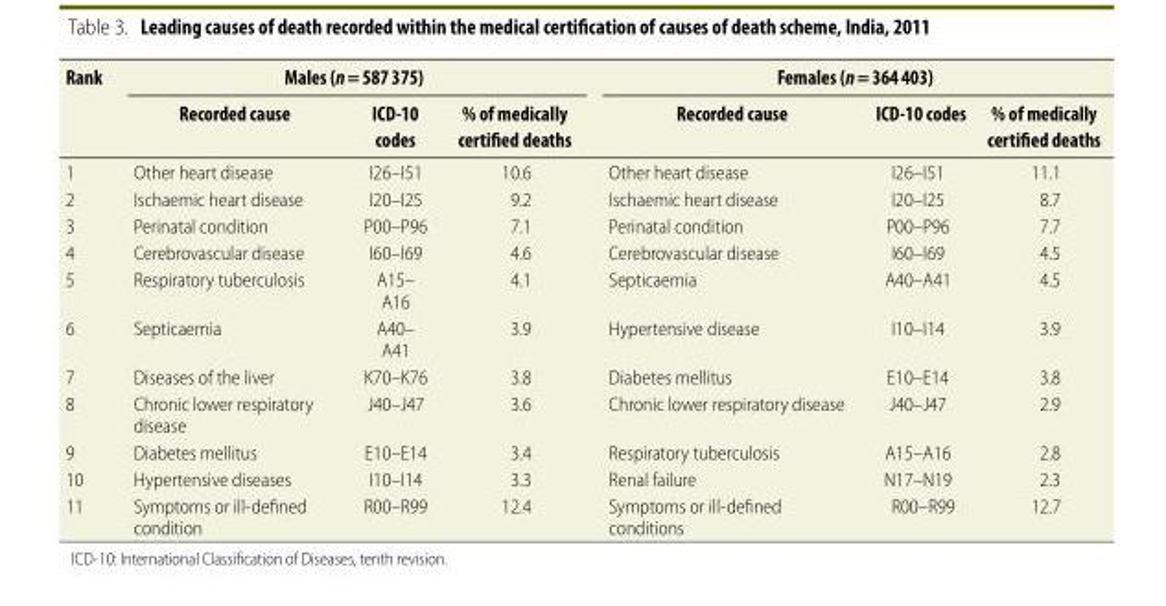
<table><thead><tr><td rowspan="2">Rank</td><td colspan="3">Males (n = 587 375)</td><td colspan="3">Females (n = 364 403)</td></tr><tr><td>Recorded cause</td><td>ICD-10 codes</td><td>% of medically certified deaths</td><td>Recorded cause</td><td>ICD-10 codes</td><td>% of medically certified deaths</td></tr></thead><tbody><tr><td>1</td><td>Other heart disease</td><td>I26–I51</td><td>10.6</td><td>Other heart disease</td><td>I26–I51</td><td>11.1</td></tr><tr><td>2</td><td>Ischaemic heart disease</td><td>I20–I25</td><td>9.2</td><td>Ischaemic heart disease</td><td>I20–I25</td><td>8.7</td></tr><tr><td>3</td><td>Perinatal condition</td><td>P00–P96</td><td>7.1</td><td>Perinatal condition</td><td>P00–P96</td><td>7.7</td></tr><tr><td>4</td><td>Cerebrovascular disease</td><td>I60–I69</td><td>4.6</td><td>Cerebrovascular disease</td><td>I60–I69</td><td>4.5</td></tr><tr><td>5</td><td>Respiratory tuberculosis</td><td>A15– A16</td><td>4.1</td><td>Septicaemia</td><td>A40–A41</td><td>4.5</td></tr><tr><td>6</td><td>Septicaemia</td><td>A40– A41</td><td>3.9</td><td>Hypertensive disease</td><td>I10–I14</td><td>3.9</td></tr><tr><td>7</td><td>Diseases of the liver</td><td>K70–K76</td><td>3.8</td><td>Diabetes mellitus</td><td>E10–E14</td><td>3.8</td></tr><tr><td>8</td><td>Chronic lower respiratory disease</td><td>J40–J47</td><td>3.6</td><td>Chronic lower respiratory disease</td><td>J40–J47</td><td>2.9</td></tr><tr><td>9</td><td>Diabetes mellitus</td><td>E10–E14</td><td>3.4</td><td>Respiratory tuberculosis</td><td>A15–A16</td><td>2.8</td></tr><tr><td>10</td><td>Hypertensive diseases</td><td>I10–I14</td><td>3.3</td><td>Renal failure</td><td>N17–N19</td><td>2.3</td></tr><tr><td>11</td><td>Symptoms or ill-defined condition</td><td>R00–R99</td><td>12.4</td><td>Symptoms or ill-defined conditions</td><td>R00–R99</td><td>12.7</td></tr></tbody></table>